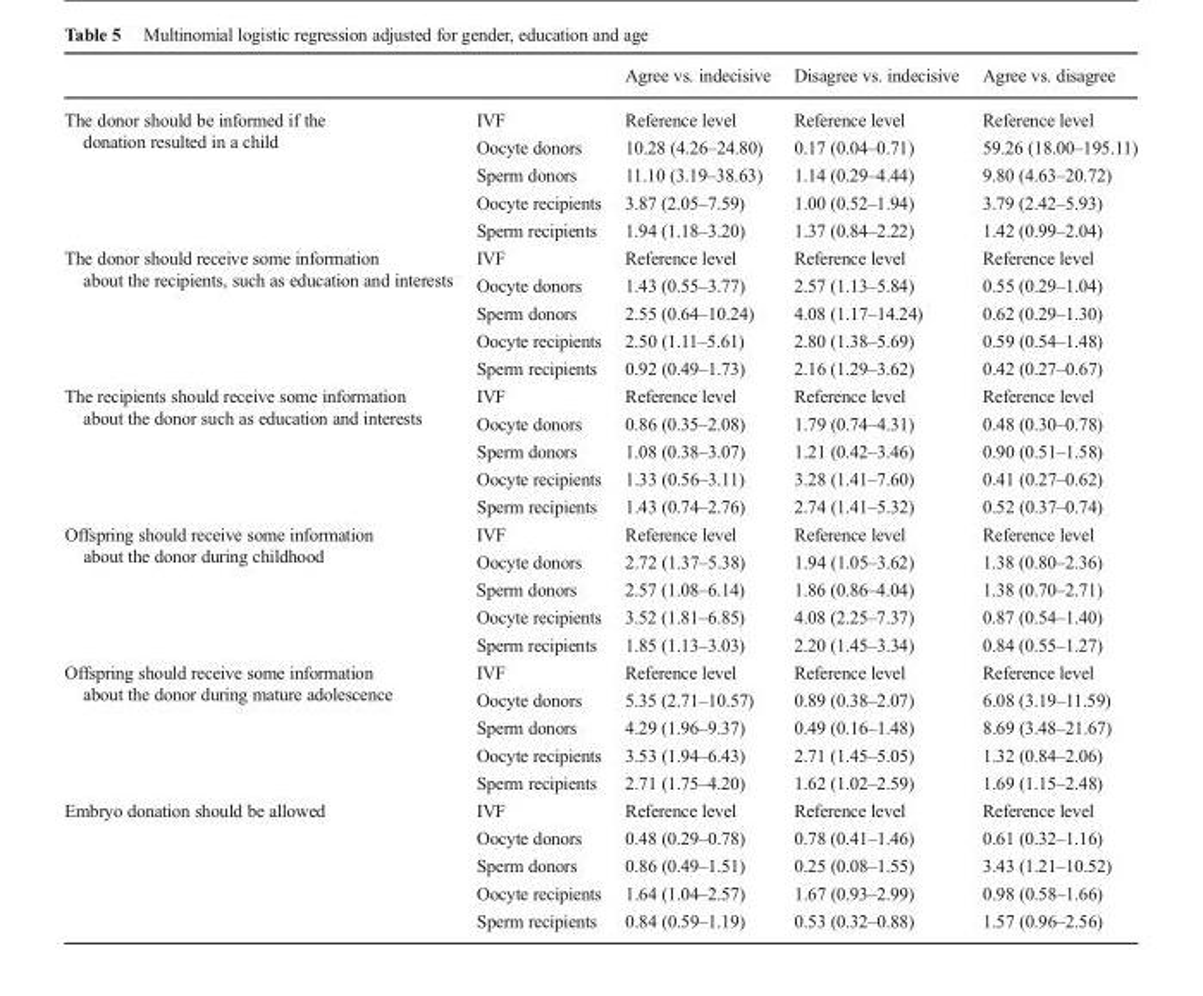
<table><thead><tr><td></td><td></td><td>Agree vs. indecisive</td><td>Disagree vs. indecisive</td><td>Agree vs. disagree</td></tr></thead><tbody><tr><td rowspan="5">The donor should be informed if the donation resulted in a child</td><td>IVF</td><td>Reference level</td><td>Reference level</td><td>Reference level</td></tr><tr><td>Oocyte donors</td><td>10.28 (4.26–24.80)</td><td>0.17 (0.04–0.71)</td><td>59.26 (18.00–195.11)</td></tr><tr><td>Sperm donors</td><td>11.10 (3.19–38.63)</td><td>1.14 (0.29–4.44)</td><td>9.80 (4.63–20.72)</td></tr><tr><td>Oocyte recipients</td><td>3.87 (2.05–7.59)</td><td>1.00 (0.52–1.94)</td><td>3.79 (2.42–5.93)</td></tr><tr><td>Sperm recipients</td><td>1.94 (1.18–3.20)</td><td>1.37 (0.84–2.22)</td><td>1.42 (0.99–2.04)</td></tr><tr><td rowspan="5">The donor should receive some information about the recipients, such as education and interests</td><td>IVF</td><td>Reference level</td><td>Reference level</td><td>Reference level</td></tr><tr><td>Oocyte donors</td><td>1.43 (0.55–3.77)</td><td>2.57 (1.13–5.84)</td><td>0.55 (0.29–1.04)</td></tr><tr><td>Sperm donors</td><td>2.55 (0.64–10.24)</td><td>4.08 (1.17–14.24)</td><td>0.62 (0.29–1.30)</td></tr><tr><td>Oocyte recipients</td><td>2.50 (1.11–5.61)</td><td>2.80 (1.38–5.69)</td><td>0.59 (0.54–1.48)</td></tr><tr><td>Sperm recipients</td><td>0.92 (0.49–1.73)</td><td>2.16 (1.29–3.62)</td><td>0.42 (0.27–0.67)</td></tr><tr><td rowspan="5">The recipients should receive some information about the donor such as education and interests</td><td>IVF</td><td>Reference level</td><td>Reference level</td><td>Reference level</td></tr><tr><td>Oocyte donors</td><td>0.86 (0.35–2.08)</td><td>1.79 (0.74–4.31)</td><td>0.48 (0.30–0.78)</td></tr><tr><td>Sperm donors</td><td>1.08 (0.38–3.07)</td><td>1.21 (0.42–3.46)</td><td>0.90 (0.51–1.58)</td></tr><tr><td>Oocyte recipients</td><td>1.33 (0.56–3.11)</td><td>3.28 (1.41–7.60)</td><td>0.41 (0.27–0.62)</td></tr><tr><td>Sperm recipients</td><td>1.43 (0.74–2.76)</td><td>2.74 (1.41–5.32)</td><td>0.52 (0.37–0.74)</td></tr><tr><td rowspan="5">Offspring should receive some information about the donor during childhood</td><td>IVF</td><td>Reference level</td><td>Reference level</td><td>Reference level</td></tr><tr><td>Oocyte donors</td><td>2.72 (1.37–5.38)</td><td>1.94 (1.05–3.62)</td><td>1.38 (0.80–2.36)</td></tr><tr><td>Sperm donors</td><td>2.57 (1.08–6.14)</td><td>1.86 (0.86–4.04)</td><td>1.38 (0.70–2.71)</td></tr><tr><td>Oocyte recipients</td><td>3.52 (1.81–6.85)</td><td>4.08 (2.25–7.37)</td><td>0.87 (0.54–1.40)</td></tr><tr><td>Sperm recipients</td><td>1.85 (1.13–3.03)</td><td>2.20 (1.45–3.34)</td><td>0.84 (0.55–1.27)</td></tr><tr><td rowspan="5">Offspring should receive some information about the donor during mature adolescence</td><td>IVF</td><td>Reference level</td><td>Reference level</td><td>Reference level</td></tr><tr><td>Oocyte donors</td><td>5.35 (2.71–10.57)</td><td>0.89 (0.38–2.07)</td><td>6.08 (3.19–11.59)</td></tr><tr><td>Sperm donors</td><td>4.29 (1.96–9.37)</td><td>0.49 (0.16–1.48)</td><td>8.69 (3.48–21.67)</td></tr><tr><td>Oocyte recipients</td><td>3.53 (1.94–6.43)</td><td>2.71 (1.45–5.05)</td><td>1.32 (0.84–2.06)</td></tr><tr><td>Sperm recipients</td><td>2.71 (1.75–4.20)</td><td>1.62 (1.02–2.59)</td><td>1.69 (1.15–2.48)</td></tr><tr><td rowspan="5">Embryo donation should be allowed</td><td>IVF</td><td>Reference level</td><td>Reference level</td><td>Reference level</td></tr><tr><td>Oocyte donors</td><td>0.48 (0.29–0.78)</td><td>0.78 (0.41–1.46)</td><td>0.61 (0.32–1.16)</td></tr><tr><td>Sperm donors</td><td>0.86 (0.49–1.51)</td><td>0.25 (0.08–1.55)</td><td>3.43 (1.21–10.52)</td></tr><tr><td>Oocyte recipients</td><td>1.64 (1.04–2.57)</td><td>1.67 (0.93–2.99)</td><td>0.98 (0.58–1.66)</td></tr><tr><td>Sperm recipients</td><td>0.84 (0.59–1.19)</td><td>0.53 (0.32–0.88)</td><td>1.57 (0.96–2.56)</td></tr></tbody></table>